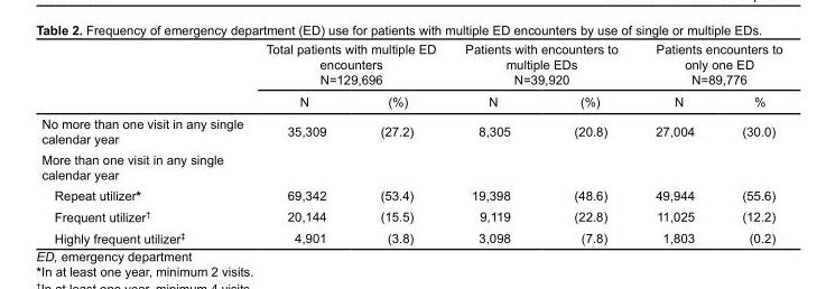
<table><thead><tr><td rowspan="2"></td><td colspan="2">Total patients with multiple ED encounters N=129,696</td><td colspan="2">Patients with encounters to multiple EDs N=39,920</td><td colspan="2">Patients encounters to only one ED N=89,776</td></tr><tr><td>N</td><td>(%)</td><td>N</td><td>(%)</td><td>N</td><td>%</td></tr></thead><tbody><tr><td>No more than one visit in any single calendar year</td><td>35,309</td><td>(27.2)</td><td>8,305</td><td>(20.8)</td><td>27,004</td><td>(30.0)</td></tr><tr><td colspan="7">More than one visit in any single calendar year</td></tr><tr><td>Repeat utilizer*</td><td>69,342</td><td>(53.4)</td><td>19,398</td><td>(48.6)</td><td>49,944</td><td>(55.6)</td></tr><tr><td>Frequent utilizer†</td><td>20,144</td><td>(15.5)</td><td>9,119</td><td>(22.8)</td><td>11,025</td><td>(12.2)</td></tr><tr><td>Highly frequent utilizer‡</td><td>4,901</td><td>(3.8)</td><td>3,098</td><td>(7.8)</td><td>1,803</td><td>(0.2)</td></tr></tbody></table>